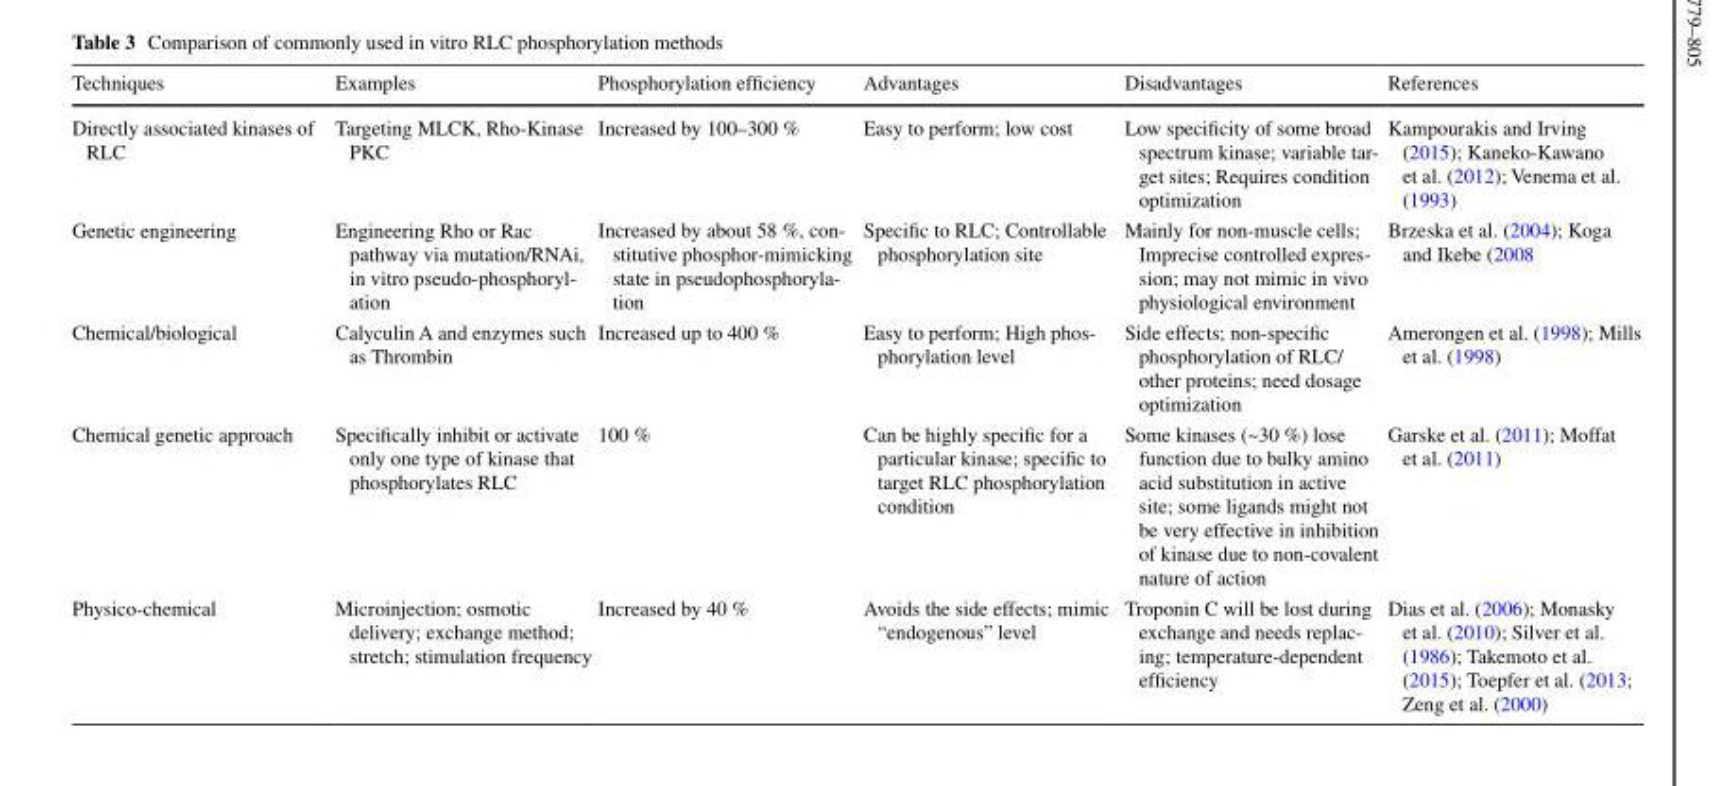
<table><thead><tr><td>Techniques</td><td>Examples</td><td>Phosphorylation efficiency</td><td>Advantages</td><td>Disadvantages</td><td>References</td></tr></thead><tbody><tr><td>Directly associated kinases of RLC</td><td>Targeting MLCK, Rho-Kinase PKC</td><td>Increased by 100–300 %</td><td>Easy to perform; low cost</td><td>Low specificity of some broad spectrum kinase; variable tar- get sites; Requires condition optimization</td><td>Kampourakis and Irving (2015); Kaneko-Kawano et al. (2012); Venema et al. (1993)</td></tr><tr><td>Genetic engineering</td><td>Engineering Rho or Rac pathway via mutation/RNAi, in vitro pseudo-phosphoryl- ation</td><td>Increased by about 58 %, con- stitutive phosphor-mimicking state in pseudophosphoryla- tion</td><td>Specific to RLC; Controllable phosphorylation site</td><td>Mainly for non-muscle cells; Imprecise controlled expres- sion; may not mimic in vivo physiological environment</td><td>Brzeska et al. (2004); Koga and Ikebe (2008</td></tr><tr><td>Chemical/biological</td><td>Calyculin A and enzymes such as Thrombin</td><td>Increased up to 400 %</td><td>Easy to perform; High phos- phorylation level</td><td>Side effects; non-specific phosphorylation of RLC/ other proteins; need dosage optimization</td><td>Amerongen et al. (1998); Mills et al. (1998)</td></tr><tr><td>Chemical genetic approach</td><td>Specifically inhibit or activate only one type of kinase that phosphorylates RLC</td><td>100 %</td><td>Can be highly specific for a particular kinase; specific to target RLC phosphorylation condition</td><td>Some kinases (~30 %) lose function due to bulky amino acid substitution in active site; some ligands might not be very effective in inhibition of kinase due to non-covalent nature of action</td><td>Garske et al. (2011); Moffat et al. (2011)</td></tr><tr><td>Physico-chemical</td><td>Microinjection; osmotic delivery; exchange method; stretch; stimulation frequency</td><td>Increased by 40 %</td><td>Avoids the side effects; mimic “endogenous” level</td><td>Troponin C will be lost during exchange and needs replac- ing; temperature-dependent efficiency</td><td>Dias et al. (2006); Monasky et al. (2010); Silver et al. (1986); Takemoto et al. (2015); Toepfer et al. (2013; Zeng et al. (2000)</td></tr></tbody></table>